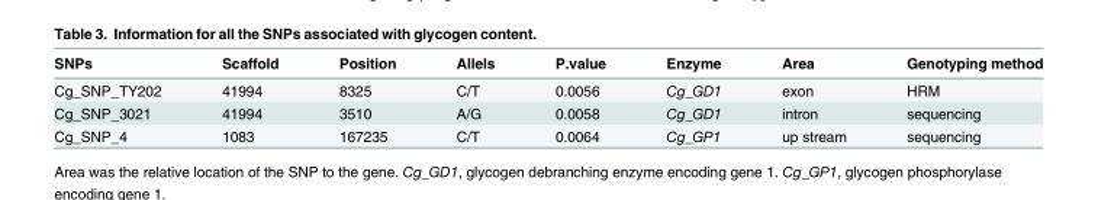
<table><thead><tr><td>SNPs</td><td>Scaffold</td><td>Position</td><td>Allels</td><td>P.value</td><td>Enzyme</td><td>Area</td><td>Genotyping method</td></tr></thead><tbody><tr><td>Cg_SNP_TY202</td><td>41994</td><td>8325</td><td>C/T</td><td>0.0056</td><td>Cg_GD1</td><td>exon</td><td>HRM</td></tr><tr><td>Cg_SNP_3021</td><td>41994</td><td>3510</td><td>A/G</td><td>0.0058</td><td>Cg_GD1</td><td>intron</td><td>sequencing</td></tr><tr><td>Cg_SNP_4</td><td>1083</td><td>167235</td><td>C/T</td><td>0.0064</td><td>Cg_GP1</td><td>up stream</td><td>sequencing</td></tr></tbody></table>